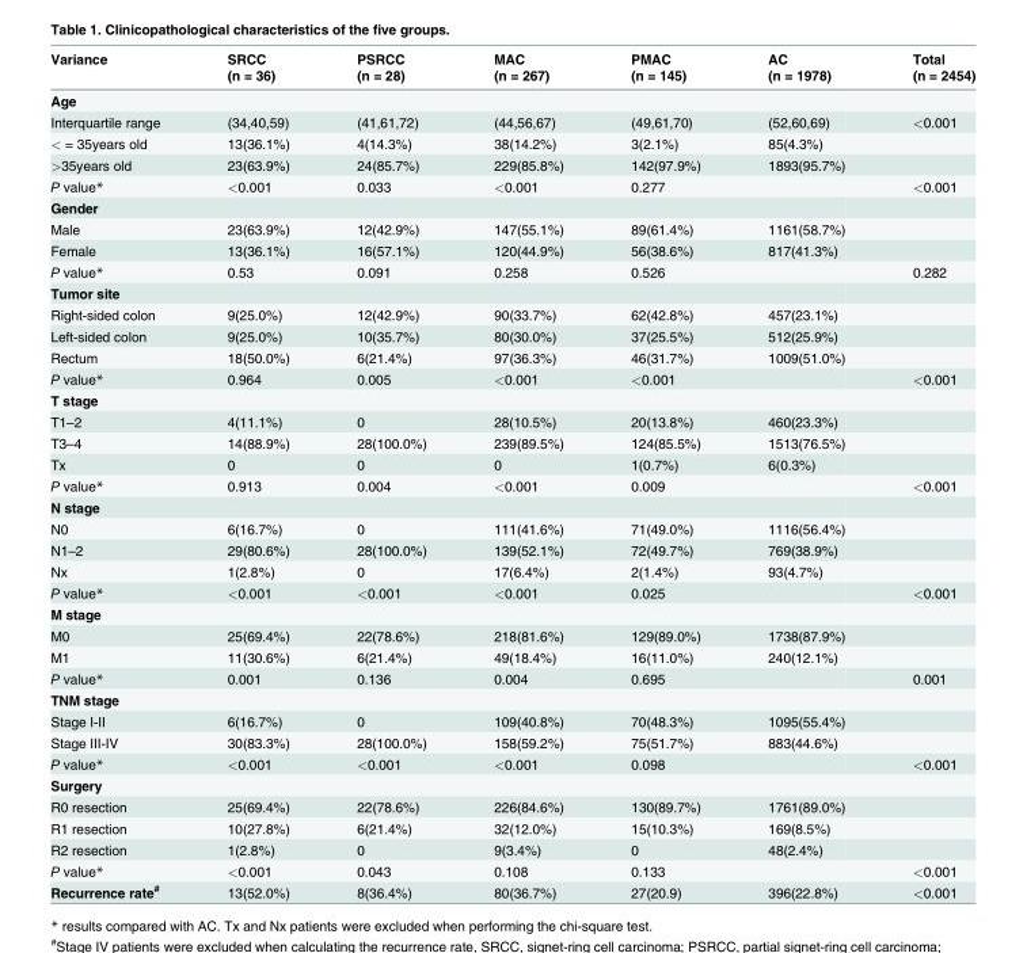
<table><thead><tr><td>Variance</td><td>SRCC (n = 36)</td><td>PSRCC (n = 28)</td><td>MAC (n = 267)</td><td>PMAC (n = 145)</td><td>AC (n = 1978)</td><td>Total (n = 2454)</td></tr></thead><tbody><tr><td colspan="7">Age</td></tr><tr><td>Interquartile range</td><td>(34,40,59)</td><td>(41,61,72)</td><td>(44,56,67)</td><td>(49,61,70)</td><td>(52,60,69)</td><td>&lt;0.001</td></tr><tr><td>&lt; = 35years old</td><td>13(36.1%)</td><td>4(14.3%)</td><td>38(14.2%)</td><td>3(2.1%)</td><td>85(4.3%)</td><td></td></tr><tr><td>&gt;35years old</td><td>23(63.9%)</td><td>24(85.7%)</td><td>229(85.8%)</td><td>142(97.9%)</td><td>1893(95.7%)</td><td></td></tr><tr><td>P value*</td><td>&lt;0.001</td><td>0.033</td><td>&lt;0.001</td><td>0.277</td><td></td><td>&lt;0.001</td></tr><tr><td colspan="7">Gender</td></tr><tr><td>Male</td><td>23(63.9%)</td><td>12(42.9%)</td><td>147(55.1%)</td><td>89(61.4%)</td><td>1161(58.7%)</td><td></td></tr><tr><td>Female</td><td>13(36.1%)</td><td>16(57.1%)</td><td>120(44.9%)</td><td>56(38.6%)</td><td>817(41.3%)</td><td></td></tr><tr><td>P value*</td><td>0.53</td><td>0.091</td><td>0.258</td><td>0.526</td><td></td><td>0.282</td></tr><tr><td colspan="7">Tumor site</td></tr><tr><td>Right-sided colon</td><td>9(25.0%)</td><td>12(42.9%)</td><td>90(33.7%)</td><td>62(42.8%)</td><td>457(23.1%)</td><td></td></tr><tr><td>Left-sided colon</td><td>9(25.0%)</td><td>10(35.7%)</td><td>80(30.0%)</td><td>37(25.5%)</td><td>512(25.9%)</td><td></td></tr><tr><td>Rectum</td><td>18(50.0%)</td><td>6(21.4%)</td><td>97(36.3%)</td><td>46(31.7%)</td><td>1009(51.0%)</td><td></td></tr><tr><td>P value*</td><td>0.964</td><td>0.005</td><td>&lt;0.001</td><td>&lt;0.001</td><td></td><td>&lt;0.001</td></tr><tr><td colspan="7">T stage</td></tr><tr><td>T1–2</td><td>4(11.1%)</td><td>0</td><td>28(10.5%)</td><td>20(13.8%)</td><td>460(23.3%)</td><td></td></tr><tr><td>T3–4</td><td>14(88.9%)</td><td>28(100.0%)</td><td>239(89.5%)</td><td>124(85.5%)</td><td>1513(76.5%)</td><td></td></tr><tr><td>Tx</td><td>0</td><td>0</td><td>0</td><td>1(0.7%)</td><td>6(0.3%)</td><td></td></tr><tr><td>P value*</td><td>0.913</td><td>0.004</td><td>&lt;0.001</td><td>0.009</td><td></td><td>&lt;0.001</td></tr><tr><td colspan="7">N stage</td></tr><tr><td>N0</td><td>6(16.7%)</td><td>0</td><td>111(41.6%)</td><td>71(49.0%)</td><td>1116(56.4%)</td><td></td></tr><tr><td>N1–2</td><td>29(80.6%)</td><td>28(100.0%)</td><td>139(52.1%)</td><td>72(49.7%)</td><td>769(38.9%)</td><td></td></tr><tr><td>Nx</td><td>1(2.8%)</td><td>0</td><td>17(6.4%)</td><td>2(1.4%)</td><td>93(4.7%)</td><td></td></tr><tr><td>P value*</td><td>&lt;0.001</td><td>&lt;0.001</td><td>&lt;0.001</td><td>0.025</td><td></td><td>&lt;0.001</td></tr><tr><td colspan="7">M stage</td></tr><tr><td>M0</td><td>25(69.4%)</td><td>22(78.6%)</td><td>218(81.6%)</td><td>129(89.0%)</td><td>1738(87.9%)</td><td></td></tr><tr><td>M1</td><td>11(30.6%)</td><td>6(21.4%)</td><td>49(18.4%)</td><td>16(11.0%)</td><td>240(12.1%)</td><td></td></tr><tr><td>P value*</td><td>0.001</td><td>0.136</td><td>0.004</td><td>0.695</td><td></td><td>0.001</td></tr><tr><td colspan="7">TNM stage</td></tr><tr><td>Stage I-II</td><td>6(16.7%)</td><td>0</td><td>109(40.8%)</td><td>70(48.3%)</td><td>1095(55.4%)</td><td></td></tr><tr><td>Stage III-IV</td><td>30(83.3%)</td><td>28(100.0%)</td><td>158(59.2%)</td><td>75(51.7%)</td><td>883(44.6%)</td><td></td></tr><tr><td>P value*</td><td>&lt;0.001</td><td>&lt;0.001</td><td>&lt;0.001</td><td>0.098</td><td></td><td>&lt;0.001</td></tr><tr><td colspan="7">Surgery</td></tr><tr><td>R0 resection</td><td>25(69.4%)</td><td>22(78.6%)</td><td>226(84.6%)</td><td>130(89.7%)</td><td>1761(89.0%)</td><td></td></tr><tr><td>R1 resection</td><td>10(27.8%)</td><td>6(21.4%)</td><td>32(12.0%)</td><td>15(10.3%)</td><td>169(8.5%)</td><td></td></tr><tr><td>R2 resection</td><td>1(2.8%)</td><td>0</td><td>9(3.4%)</td><td>0</td><td>48(2.4%)</td><td></td></tr><tr><td>P value*</td><td>&lt;0.001</td><td>0.043</td><td>0.108</td><td>0.133</td><td></td><td>&lt;0.001</td></tr><tr><td>Recurrence rate<sup>#</sup></td><td>13(52.0%)</td><td>8(36.4%)</td><td>80(36.7%)</td><td>27(20.9)</td><td>396(22.8%)</td><td>&lt;0.001</td></tr></tbody></table>